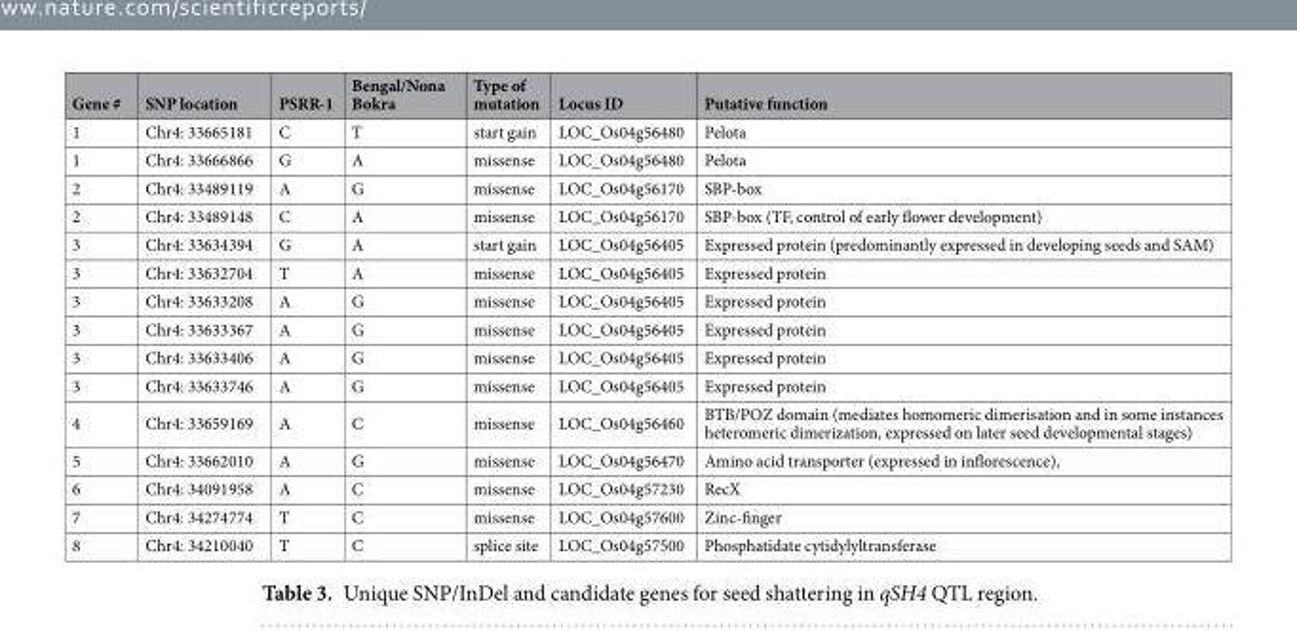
<table><thead><tr><td>Gene #</td><td>SNP location</td><td>PSRR-1</td><td>Bengal/Nona Bokra</td><td>Type of mutation</td><td>Locus ID</td><td>Putative function</td></tr></thead><tbody><tr><td>1</td><td>Chr4: 33665181</td><td>C</td><td>T</td><td>start gain</td><td>LOC_Os04g56480</td><td>Pelota</td></tr><tr><td>1</td><td>Chr4: 33666866</td><td>G</td><td>A</td><td>missense</td><td>LOC_Os04g56480</td><td>Pelota</td></tr><tr><td>2</td><td>Chr4: 33489119</td><td>A</td><td>G</td><td>missense</td><td>LOC_Os04g56170</td><td>SBP-box</td></tr><tr><td>2</td><td>Chr4: 33489148</td><td>C</td><td>A</td><td>missense</td><td>LOC_Os04g56170</td><td>SBP-box (TF, control of early flower development)</td></tr><tr><td>3</td><td>Chr4: 33634394</td><td>G</td><td>A</td><td>start gain</td><td>LOC_Os04g56405</td><td>Expressed protein (predominantly expressed in developing seeds and SAM)</td></tr><tr><td>3</td><td>Chr4: 33632704</td><td>T</td><td>A</td><td>missense</td><td>LOC_Os04g56405</td><td>Expressed protein</td></tr><tr><td>3</td><td>Chr4: 33633208</td><td>A</td><td>G</td><td>missense</td><td>LOC_Os04g56405</td><td>Expressed protein</td></tr><tr><td>3</td><td>Chr4: 33633367</td><td>A</td><td>G</td><td>missense</td><td>LOC_Os04g56405</td><td>Expressed protein</td></tr><tr><td>3</td><td>Chr4: 33633406</td><td>A</td><td>G</td><td>missense</td><td>LOC_Os04g56405</td><td>Expressed protein</td></tr><tr><td>3</td><td>Chr4: 33633746</td><td>A</td><td>G</td><td>missense</td><td>LOC_Os04g56405</td><td>Expressed protein</td></tr><tr><td>4</td><td>Chr4: 33659169</td><td>A</td><td>C</td><td>missense</td><td>LOC_Os04g56460</td><td>BTB/POZ domain (mediates homomeric dimerisation and in some instances heteromeric dimerization, expressed on later seed developmental stages)</td></tr><tr><td>5</td><td>Chr4: 33662010</td><td>A</td><td>G</td><td>missense</td><td>LOC_Os04g56470</td><td>Amino acid transporter (expressed in inflorescence),</td></tr><tr><td>6</td><td>Chr4: 34091958</td><td>A</td><td>C</td><td>missense</td><td>LOC_Os04g57230</td><td>RecX</td></tr><tr><td>7</td><td>Chr4: 34274774</td><td>T</td><td>C</td><td>missense</td><td>LOC_Os04g57600</td><td>Zinc-finger</td></tr><tr><td>8</td><td>Chr4: 34210040</td><td>T</td><td>C</td><td>splice site</td><td>LOC_Os04g57500</td><td>Phosphatidate cytidylyltransferase</td></tr></tbody></table>